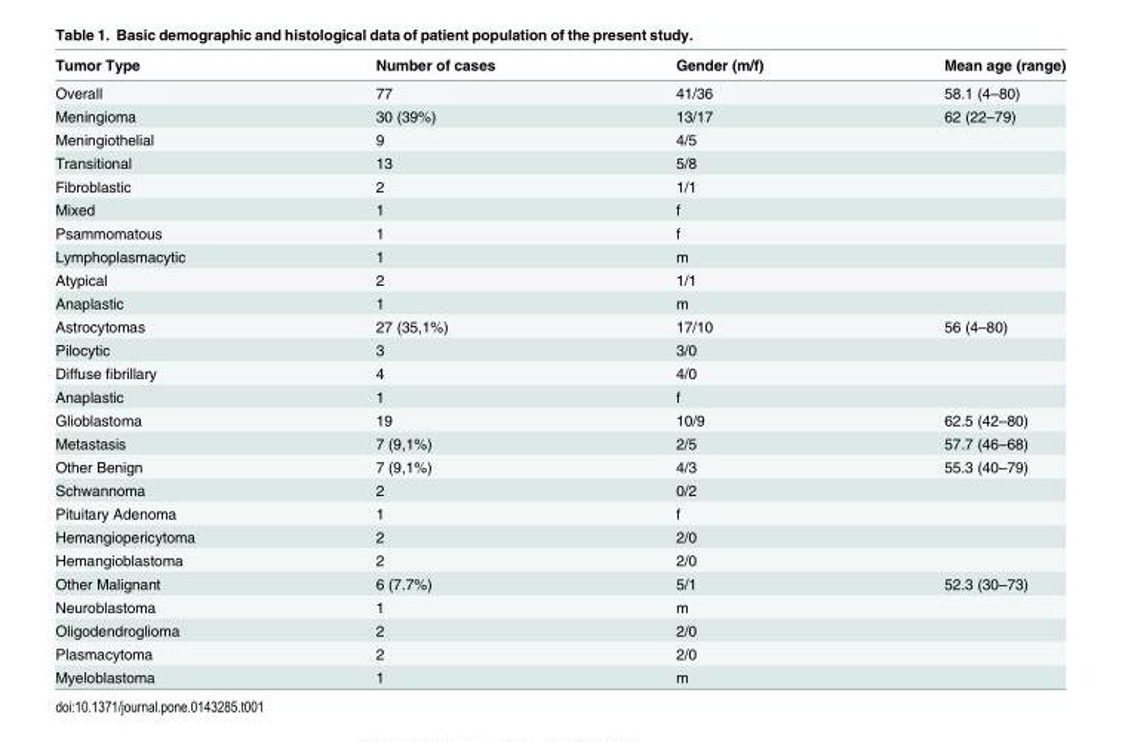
<table><thead><tr><td>Tumor Type</td><td>Number of cases</td><td>Gender (m/f)</td><td>Mean age (range)</td></tr></thead><tbody><tr><td>Overall</td><td>77</td><td>41/36</td><td>58.1 (4–80)</td></tr><tr><td>Meningioma</td><td>30 (39%)</td><td>13/17</td><td>62 (22–79)</td></tr><tr><td>Meningiothelial</td><td>9</td><td>4/5</td><td></td></tr><tr><td>Transitional</td><td>13</td><td>5/8</td><td></td></tr><tr><td>Fibroblastic</td><td>2</td><td>1/1</td><td></td></tr><tr><td>Mixed</td><td>1</td><td>f</td><td></td></tr><tr><td>Psammomatous</td><td>1</td><td>f</td><td></td></tr><tr><td>Lymphoplasmacytic</td><td>1</td><td>m</td><td></td></tr><tr><td>Atypical</td><td>2</td><td>1/1</td><td></td></tr><tr><td>Anaplastic</td><td>1</td><td>m</td><td></td></tr><tr><td>Astrocytomas</td><td>27 (35,1%)</td><td>17/10</td><td>56 (4–80)</td></tr><tr><td>Pilocytic</td><td>3</td><td>3/0</td><td></td></tr><tr><td>Diffuse fibrillary</td><td>4</td><td>4/0</td><td></td></tr><tr><td>Anaplastic</td><td>1</td><td>f</td><td></td></tr><tr><td>Glioblastoma</td><td>19</td><td>10/9</td><td>62.5 (42–80)</td></tr><tr><td>Metastasis</td><td>7 (9,1%)</td><td>2/5</td><td>57.7 (46–68)</td></tr><tr><td>Other Benign</td><td>7 (9,1%)</td><td>4/3</td><td>55.3 (40–79)</td></tr><tr><td>Schwannoma</td><td>2</td><td>0/2</td><td></td></tr><tr><td>Pituitary Adenoma</td><td>1</td><td>f</td><td></td></tr><tr><td>Hemangiopericytoma</td><td>2</td><td>2/0</td><td></td></tr><tr><td>Hemangioblastoma</td><td>2</td><td>2/0</td><td></td></tr><tr><td>Other Malignant</td><td>6 (7.7%)</td><td>5/1</td><td>52.3 (30–73)</td></tr><tr><td>Neuroblastoma</td><td>1</td><td>m</td><td></td></tr><tr><td>Oligodendroglioma</td><td>2</td><td>2/0</td><td></td></tr><tr><td>Plasmacytoma</td><td>2</td><td>2/0</td><td></td></tr><tr><td>Myeloblastoma</td><td>1</td><td>m</td><td></td></tr></tbody></table>